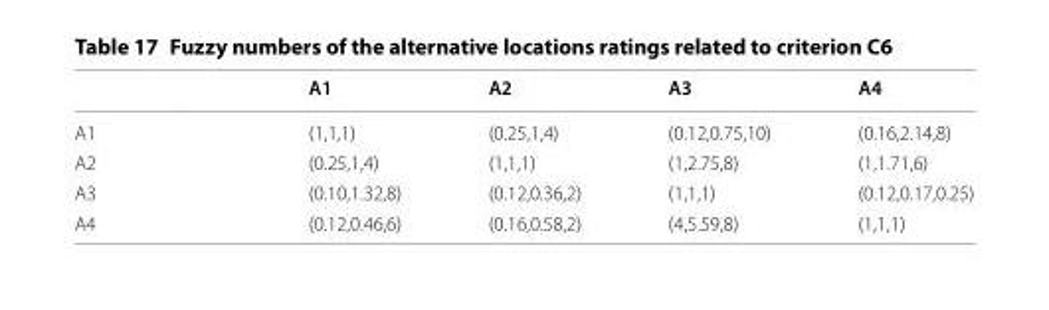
<table><thead><tr><td></td><td>A1</td><td>A2</td><td>A3</td><td>A4</td></tr></thead><tbody><tr><td>A1</td><td>(1,1,1)</td><td>(0.25,1,4)</td><td>(0.12,0.75,10)</td><td>(0.16,2.14,8)</td></tr><tr><td>A2</td><td>(0.25,1,4)</td><td>(1,1,1)</td><td>(1,2.75,8)</td><td>(1,1.71,6)</td></tr><tr><td>A3</td><td>(0.10,1.32,8)</td><td>(0.12,0.36,2)</td><td>(1,1,1)</td><td>(0.12,0.17,0.25)</td></tr><tr><td>A4</td><td>(0.12,0.46,6)</td><td>(0.16,0.58,2)</td><td>(4,5.59,8)</td><td>(1,1,1)</td></tr></tbody></table>